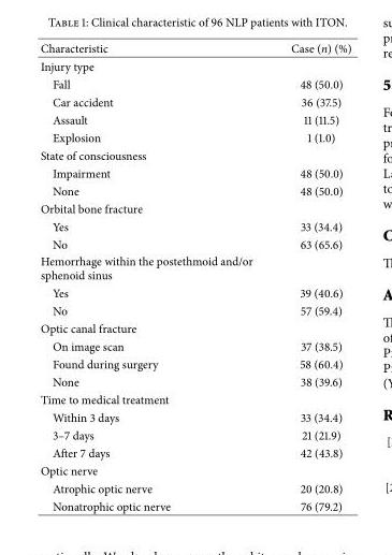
<table><thead><tr><td>Characteristic</td><td>Case (n) (%)</td></tr></thead><tbody><tr><td colspan="2">Injury type</td></tr><tr><td>Fall</td><td>48 (50.0)</td></tr><tr><td>Car accident</td><td>36 (37.5)</td></tr><tr><td>Assault</td><td>11 (11.5)</td></tr><tr><td>Explosion</td><td>1 (1.0)</td></tr><tr><td colspan="2">State of consciousness</td></tr><tr><td>Impairment</td><td>48 (50.0)</td></tr><tr><td>None</td><td>48 (50.0)</td></tr><tr><td colspan="2">Orbital bone fracture</td></tr><tr><td>Yes</td><td>33 (34.4)</td></tr><tr><td>No</td><td>63 (65.6)</td></tr><tr><td colspan="2">Hemorrhage within the postethmoid and/or sphenoid sinus</td></tr><tr><td>Yes</td><td>39 (40.6)</td></tr><tr><td>No</td><td>57 (59.4)</td></tr><tr><td colspan="2">Optic canal fracture</td></tr><tr><td>On image scan</td><td>37 (38.5)</td></tr><tr><td>Found during surgery</td><td>58 (60.4)</td></tr><tr><td>None</td><td>38 (39.6)</td></tr><tr><td colspan="2">Time to medical treatment</td></tr><tr><td>Within 3 days</td><td>33 (34.4)</td></tr><tr><td>3–7 days</td><td>21 (21.9)</td></tr><tr><td>After 7 days</td><td>42 (43.8)</td></tr><tr><td colspan="2">Optic nerve</td></tr><tr><td>Atrophic optic nerve</td><td>20 (20.8)</td></tr><tr><td>Nonatrophic optic nerve</td><td>76 (79.2)</td></tr></tbody></table>